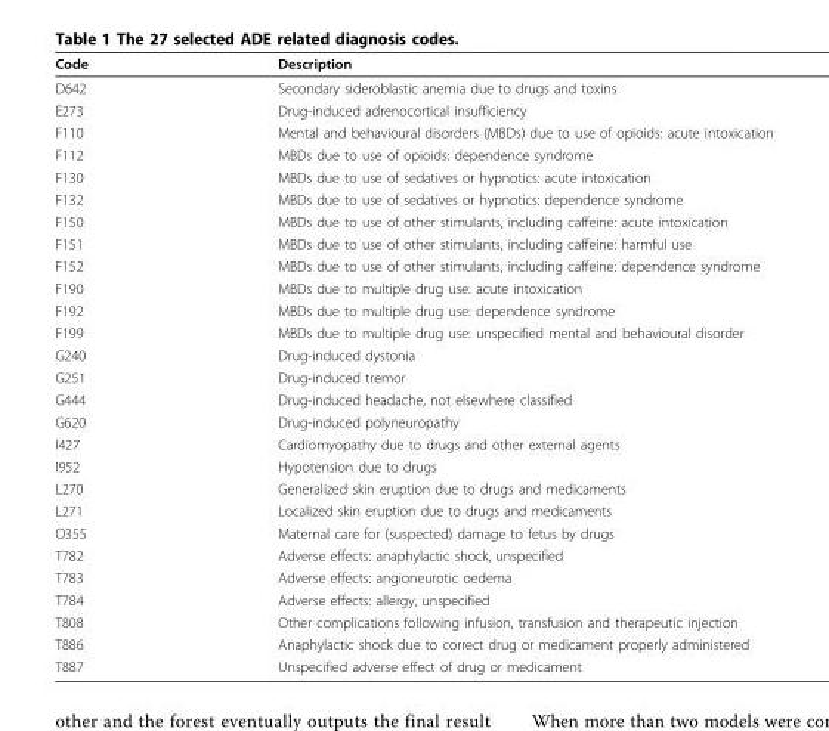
<table><thead><tr><td>Code</td><td>Description</td></tr></thead><tbody><tr><td>D642</td><td>Secondary sideroblastic anemia due to drugs and toxins</td></tr><tr><td>E273</td><td>Drug-induced adrenocortical insufficiency</td></tr><tr><td>F110</td><td>Mental and behavioural disorders (MBDs) due to use of opioids: acute intoxication</td></tr><tr><td>F112</td><td>MBDs due to use of opioids: dependence syndrome</td></tr><tr><td>F130</td><td>MBDs due to use of sedatives or hypnotics: acute intoxication</td></tr><tr><td>F132</td><td>MBDs due to use of sedatives or hypnotics: dependence syndrome</td></tr><tr><td>F150</td><td>MBDs due to use of other stimulants, including caffeine: acute intoxication</td></tr><tr><td>F151</td><td>MBDs due to use of other stimulants, including caffeine: harmful use</td></tr><tr><td>F152</td><td>MBDs due to use of other stimulants, including caffeine: dependence syndrome</td></tr><tr><td>F190</td><td>MBDs due to multiple drug use: acute intoxication</td></tr><tr><td>F192</td><td>MBDs due to multiple drug use: dependence syndrome</td></tr><tr><td>F199</td><td>MBDs due to multiple drug use: unspecified mental and behavioural disorder</td></tr><tr><td>G240</td><td>Drug-induced dystonia</td></tr><tr><td>G251</td><td>Drug-induced tremor</td></tr><tr><td>G444</td><td>Drug-induced headache, not elsewhere classified</td></tr><tr><td>G620</td><td>Drug-induced polyneuropathy</td></tr><tr><td>I427</td><td>Cardiomyopathy due to drugs and other external agents</td></tr><tr><td>I952</td><td>Hypotension due to drugs</td></tr><tr><td>L270</td><td>Generalized skin eruption due to drugs and medicaments</td></tr><tr><td>L271</td><td>Localized skin eruption due to drugs and medicaments</td></tr><tr><td>O355</td><td>Maternal care for (suspected) damage to fetus by drugs</td></tr><tr><td>T782</td><td>Adverse effects: anaphylactic shock, unspecified</td></tr><tr><td>T783</td><td>Adverse effects: angioneurotic oedema</td></tr><tr><td>T784</td><td>Adverse effects: allergy, unspecified</td></tr><tr><td>T808</td><td>Other complications following infusion, transfusion and therapeutic injection</td></tr><tr><td>T886</td><td>Anaphylactic shock due to correct drug or medicament properly administered</td></tr><tr><td>T887</td><td>Unspecified adverse effect of drug or medicament</td></tr></tbody></table>